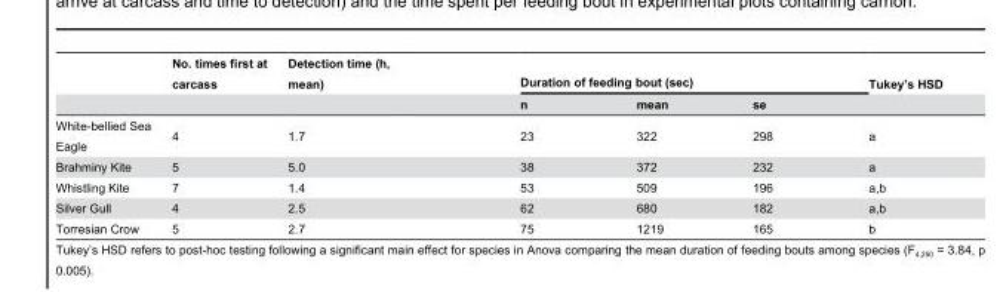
<table><thead><tr><td rowspan="2"></td><td rowspan="2">No. times first at carcass</td><td rowspan="2">Detection time (h, mean)</td><td colspan="3">Duration of feeding bout (sec)</td><td rowspan="2">Tukey’s HSD</td></tr><tr><td>n</td><td>mean</td><td>se</td></tr></thead><tbody><tr><td>White-bellied Sea Eagle</td><td>4</td><td>1.7</td><td>23</td><td>322</td><td>298</td><td>a</td></tr><tr><td>Brahminy Kite</td><td>5</td><td>5.0</td><td>38</td><td>372</td><td>232</td><td>a</td></tr><tr><td>Whistling Kite</td><td>7</td><td>1.4</td><td>53</td><td>509</td><td>196</td><td>a,b</td></tr><tr><td>Silver Gull</td><td>4</td><td>2.5</td><td>62</td><td>680</td><td>182</td><td>a,b</td></tr><tr><td>Torresian Crow</td><td>5</td><td>2.7</td><td>75</td><td>1219</td><td>165</td><td>b</td></tr></tbody></table>